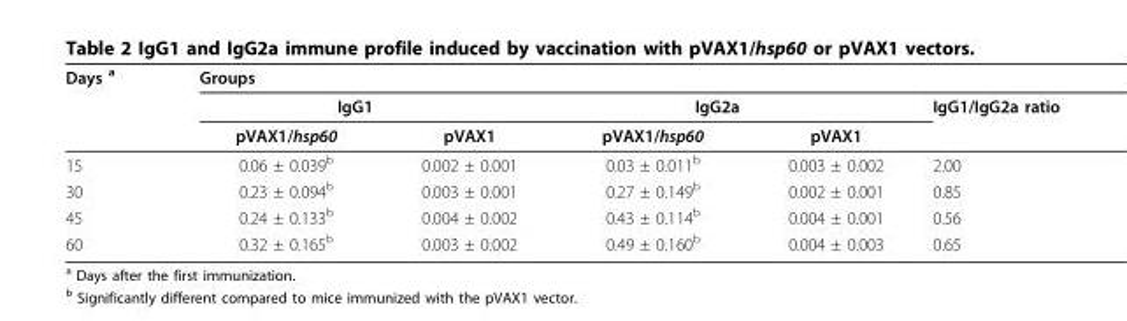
<table><thead><tr><td rowspan="3">Days <sup>a</sup></td><td rowspan="3">Groups IgG1 pVAX1/hsp60</td><td rowspan="3">pVAX1</td><td rowspan="3">IgG2a pVAX1/hsp60</td><td rowspan="3">pVAX1</td><td rowspan="3">IgG1/IgG2a ratio</td></tr><tr></tr><tr></tr></thead><tbody><tr><td>15</td><td>0.06 ± 0.039<sup>b</sup></td><td>0.002 ± 0.001</td><td>0.03 ± 0.011<sup>b</sup></td><td>0.003 ± 0.002</td><td>2.00</td></tr><tr><td>30</td><td>0.23 ± 0.094<sup>b</sup></td><td>0.003 ± 0.001</td><td>0.27 ± 0.149<sup>b</sup></td><td>0.002 ± 0.001</td><td>0.85</td></tr><tr><td>45</td><td>0.24 ± 0.133<sup>b</sup></td><td>0.004 ± 0.002</td><td>0.43 ± 0.114<sup>b</sup></td><td>0.004 ± 0.001</td><td>0.56</td></tr><tr><td>60</td><td>0.32 ± 0.165<sup>b</sup></td><td>0.003 ± 0.002</td><td>0.49 ± 0.160<sup>b</sup></td><td>0.004 ± 0.003</td><td>0.65</td></tr></tbody></table>